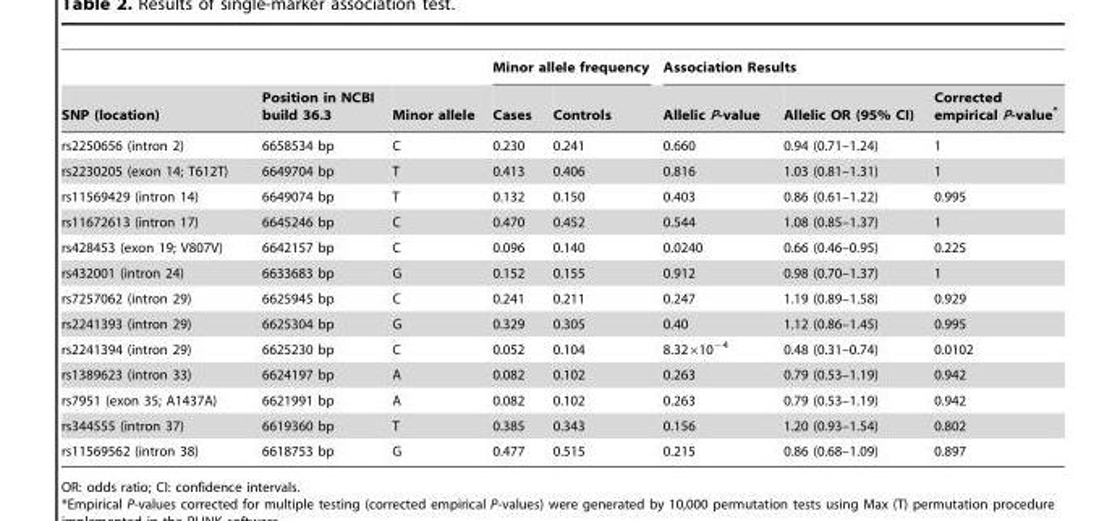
<table><thead><tr><td rowspan="2">SNP (location)</td><td rowspan="2">Position in NCBI build 36.3</td><td rowspan="2">Minor allele</td><td colspan="2">Minor allele frequency</td><td colspan="3">Association Results</td></tr><tr><td>Cases</td><td>Controls</td><td>Allelic P-value</td><td>Allelic OR (95% CI)</td><td>Corrected empirical P-value*</td></tr></thead><tbody><tr><td>rs2250656 (intron 2)</td><td>6658534 bp</td><td>C</td><td>0.230</td><td>0.241</td><td>0.660</td><td>0.94 (0.71–1.24)</td><td>1</td></tr><tr><td>rs2230205 (exon 14; T612T)</td><td>6649704 bp</td><td>T</td><td>0.413</td><td>0.406</td><td>0.816</td><td>1.03 (0.81–1.31)</td><td>1</td></tr><tr><td>rs11569429 (intron 14)</td><td>6649074 bp</td><td>T</td><td>0.132</td><td>0.150</td><td>0.403</td><td>0.86 (0.61–1.22)</td><td>0.995</td></tr><tr><td>rs11672613 (intron 17)</td><td>6645246 bp</td><td>C</td><td>0.470</td><td>0.452</td><td>0.544</td><td>1.08 (0.85–1.37)</td><td>1</td></tr><tr><td>rs428453 (exon 19; V807V)</td><td>6642157 bp</td><td>C</td><td>0.096</td><td>0.140</td><td>0.0240</td><td>0.66 (0.46–0.95)</td><td>0.225</td></tr><tr><td>rs432001 (intron 24)</td><td>6633683 bp</td><td>G</td><td>0.152</td><td>0.155</td><td>0.912</td><td>0.98 (0.70–1.37)</td><td>1</td></tr><tr><td>rs7257062 (intron 29)</td><td>6625945 bp</td><td>C</td><td>0.241</td><td>0.211</td><td>0.247</td><td>1.19 (0.89–1.58)</td><td>0.929</td></tr><tr><td>rs2241393 (intron 29)</td><td>6625304 bp</td><td>G</td><td>0.329</td><td>0.305</td><td>0.40</td><td>1.12 (0.86–1.45)</td><td>0.995</td></tr><tr><td>rs2241394 (intron 29)</td><td>6625230 bp</td><td>C</td><td>0.052</td><td>0.104</td><td>8.32×10<sup>−4</sup></td><td>0.48 (0.31–0.74)</td><td>0.0102</td></tr><tr><td>rs1389623 (intron 33)</td><td>6624197 bp</td><td>A</td><td>0.082</td><td>0.102</td><td>0.263</td><td>0.79 (0.53–1.19)</td><td>0.942</td></tr><tr><td>rs7951 (exon 35; A1437A)</td><td>6621991 bp</td><td>A</td><td>0.082</td><td>0.102</td><td>0.263</td><td>0.79 (0.53–1.19)</td><td>0.942</td></tr><tr><td>rs344555 (intron 37)</td><td>6619360 bp</td><td>T</td><td>0.385</td><td>0.343</td><td>0.156</td><td>1.20 (0.93–1.54)</td><td>0.802</td></tr><tr><td>rs11569562 (intron 38)</td><td>6618753 bp</td><td>G</td><td>0.477</td><td>0.515</td><td>0.215</td><td>0.86 (0.68–1.09)</td><td>0.897</td></tr></tbody></table>